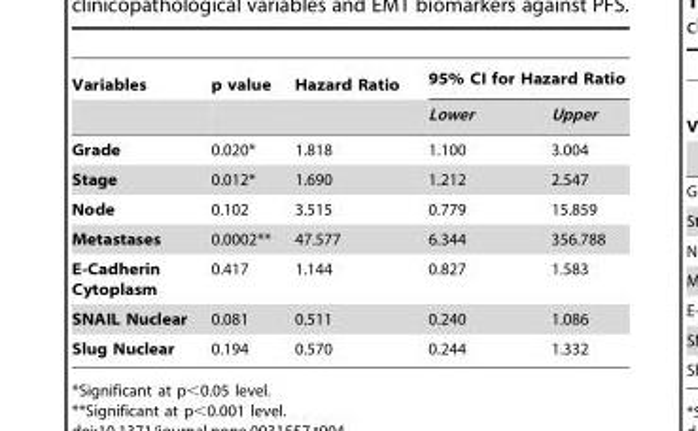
<table><thead><tr><td rowspan="2">Variables</td><td rowspan="2">p value</td><td rowspan="2">Hazard Ratio</td><td colspan="2">95% CI for Hazard Ratio</td></tr><tr><td>Lower</td><td>Upper</td></tr></thead><tbody><tr><td>Grade</td><td>0.020*</td><td>1.818</td><td>1.100</td><td>3.004</td></tr><tr><td>Stage</td><td>0.012*</td><td>1.690</td><td>1.212</td><td>2.547</td></tr><tr><td>Node</td><td>0.102</td><td>3.515</td><td>0.779</td><td>15.859</td></tr><tr><td>Metastases</td><td>0.0002**</td><td>47.577</td><td>6.344</td><td>356.788</td></tr><tr><td>E-Cadherin Cytoplasm</td><td>0.417</td><td>1.144</td><td>0.827</td><td>1.583</td></tr><tr><td>SNAIL Nuclear</td><td>0.081</td><td>0.511</td><td>0.240</td><td>1.086</td></tr><tr><td>Slug Nuclear</td><td>0.194</td><td>0.570</td><td>0.244</td><td>1.332</td></tr></tbody></table>